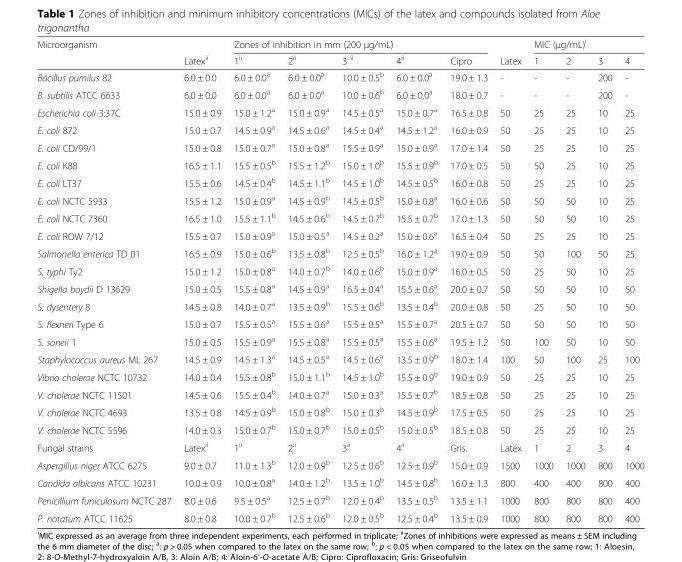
<table><thead><tr><td rowspan="2">Microorganism</td><td rowspan="2">Latex<sup>ii</sup></td><td colspan="5">Zones of inhibition in mm (200 μg/mL)</td><td rowspan="2">Latex</td><td colspan="4">MIC (μg/mL)<sup>i</sup></td></tr><tr><td>1<sup>ii</sup></td><td>2<sup>ii</sup></td><td>3 <sup>ii</sup></td><td>4<sup>ii</sup></td><td>Cipro</td><td>1</td><td>2</td><td>3</td><td>4</td></tr></thead><tbody><tr><td>Bacillus pumilus 82</td><td>6.0 ± 0.0</td><td>6.0 ± 0.0<sup>a</sup></td><td>6.0 ± 0.0<sup>a</sup></td><td>10.0 ± 0.5<sup>b</sup></td><td>6.0 ± 0.0<sup>a</sup></td><td>19.0 ± 1.3</td><td>-</td><td>-</td><td>-</td><td>200</td><td>-</td></tr><tr><td>B. subtilis ATCC 6633</td><td>6.0 ± 0.0</td><td>6.0 ± 0.0<sup>a</sup></td><td>6.0 ± 0.0<sup>a</sup></td><td>10.0 ± 0.6<sup>b</sup></td><td>6.0 ± 0.0<sup>a</sup></td><td>18.0 ± 0.7</td><td>-</td><td>-</td><td>-</td><td>200</td><td>-</td></tr><tr><td>Escherichia coli 3:37C</td><td>15.0 ± 0.9</td><td>15.0 ± 1.2<sup>a</sup></td><td>15.0 ± 0.9<sup>a</sup></td><td>14.5 ± 0.5<sup>a</sup></td><td>15.0 ± 0.7<sup>a</sup></td><td>16.5 ± 0.8</td><td>50</td><td>25</td><td>25</td><td>10</td><td>25</td></tr><tr><td>E. coli 872</td><td>15.0 ± 0.7</td><td>14.5 ± 0.9<sup>a</sup></td><td>14.5 ± 0.6<sup>a</sup></td><td>14.5 ± 0.4<sup>a</sup></td><td>14.5 ± 1.2<sup>a</sup></td><td>16.0 ± 0.9</td><td>50</td><td>25</td><td>25</td><td>10</td><td>25</td></tr><tr><td>E. coli CD/99/1</td><td>15.0 ± 0.8</td><td>15.0 ± 0.7<sup>a</sup></td><td>15.0 ± 0.8<sup>a</sup></td><td>15.5 ± 0.9<sup>a</sup></td><td>15.0 ± 0.9<sup>a</sup></td><td>17.0 ± 1.4</td><td>50</td><td>25</td><td>25</td><td>10</td><td>25</td></tr><tr><td>E. coli K88</td><td>16.5 ± 1.1</td><td>15.5 ± 0.5<sup>b</sup></td><td>15.5 ± 1.2<sup>b</sup></td><td>15.0 ± 1.0<sup>b</sup></td><td>15.5 ± 0.9<sup>b</sup></td><td>17.0 ± 0.5</td><td>50</td><td>50</td><td>25</td><td>10</td><td>25</td></tr><tr><td>E. coli LT37</td><td>15.5 ± 0.6</td><td>14.5 ± 0.4<sup>b</sup></td><td>14.5 ± 1.1<sup>b</sup></td><td>14.5 ± 1.0<sup>b</sup></td><td>14.5 ± 0.5<sup>b</sup></td><td>16.0 ± 0.8</td><td>50</td><td>25</td><td>25</td><td>10</td><td>25</td></tr><tr><td>E. coli NCTC 5933</td><td>15.5 ± 1.2</td><td>15.0 ± 0.9<sup>a</sup></td><td>14.5 ± 0.9<sup>b</sup></td><td>14.5 ± 0.5<sup>b</sup></td><td>15.0 ± 0.8<sup>a</sup></td><td>16.0 ± 0.6</td><td>50</td><td>50</td><td>50</td><td>10</td><td>25</td></tr><tr><td>E. coli NCTC 7360</td><td>16.5 ± 1.0</td><td>15.5 ± 1.1<sup>b</sup></td><td>14.5 ± 0.6<sup>b</sup></td><td>14.5 ± 0.7<sup>b</sup></td><td>15.5 ± 0.7<sup>b</sup></td><td>17.0 ± 1.3</td><td>50</td><td>50</td><td>50</td><td>10</td><td>25</td></tr><tr><td>E. coli ROW 7/12</td><td>15.5 ± 0.7</td><td>15.0 ± 0.9<sup>a</sup></td><td>15.0 ± 0.5<sup>a</sup></td><td>14.5 ± 0.2<sup>a</sup></td><td>15.0 ± 0.6<sup>a</sup></td><td>16.5 ± 0.4</td><td>50</td><td>25</td><td>25</td><td>10</td><td>25</td></tr><tr><td>Salmonella enterica TD 01</td><td>16.5 ± 0.9</td><td>15.0 ± 0.6<sup>b</sup></td><td>13.5 ± 0.8<sup>b</sup></td><td>12.5 ± 0.5<sup>b</sup></td><td>16.0 ± 1.2<sup>a</sup></td><td>19.0 ± 0.9</td><td>50</td><td>50</td><td>100</td><td>50</td><td>25</td></tr><tr><td>S. typhi Ty2</td><td>15.0 ± 1.2</td><td>15.0 ± 0.8<sup>a</sup></td><td>14.0 ± 0.7<sup>b</sup></td><td>14.0 ± 0.6<sup>b</sup></td><td>15.0 ± 0.9<sup>a</sup></td><td>16.0 ± 0.5</td><td>50</td><td>25</td><td>50</td><td>10</td><td>25</td></tr><tr><td>Shigella boydii D 13629</td><td>15.0 ± 0.5</td><td>15.5 ± 0.8<sup>a</sup></td><td>14.5 ± 0.9<sup>a</sup></td><td>16.5 ± 0.4<sup>a</sup></td><td>15.5 ± 0.6<sup>a</sup></td><td>20.0 ± 0.7</td><td>50</td><td>50</td><td>50</td><td>10</td><td>50</td></tr><tr><td>S. dysentery 8</td><td>14.5 ± 0.8</td><td>14.0 ± 0.7<sup>a</sup></td><td>13.5 ± 0.9<sup>b</sup></td><td>15.5 ± 0.6<sup>b</sup></td><td>13.5 ± 0.4<sup>b</sup></td><td>20.0 ± 0.8</td><td>50</td><td>25</td><td>50</td><td>10</td><td>50</td></tr><tr><td>S. flexneri Type 6</td><td>15.0 ± 0.7</td><td>15.5 ± 0.5<sup>a</sup></td><td>15.5 ± 0.6<sup>a</sup></td><td>15.5 ± 0.5<sup>a</sup></td><td>15.5 ± 0.7<sup>a</sup></td><td>20.5 ± 0.7</td><td>50</td><td>50</td><td>50</td><td>10</td><td>50</td></tr><tr><td>S. soneii 1</td><td>15.0 ± 0.5</td><td>15.5 ± 0.9<sup>a</sup></td><td>15.5 ± 0.8<sup>a</sup></td><td>15.5 ± 0.5<sup>a</sup></td><td>15.5 ± 0.6<sup>a</sup></td><td>19.5 ± 1.2</td><td>50</td><td>100</td><td>50</td><td>10</td><td>50</td></tr><tr><td>Staphylococcus aureus ML 267</td><td>14.5 ± 0.9</td><td>14.5 ± 1.3<sup>a</sup></td><td>14.5 ± 0.5<sup>a</sup></td><td>14.5 ± 0.6<sup>a</sup></td><td>13.5 ± 0.9<sup>b</sup></td><td>18.0 ± 1.4</td><td>100</td><td>50</td><td>100</td><td>25</td><td>100</td></tr><tr><td>Vibrio cholerae NCTC 10732</td><td>14.0 ± 0.4</td><td>15.5 ± 0.8<sup>b</sup></td><td>15.0 ± 1.1<sup>b</sup></td><td>14.5 ± 1.0<sup>b</sup></td><td>15.5 ± 0.9<sup>b</sup></td><td>19.0 ± 0.9</td><td>50</td><td>25</td><td>25</td><td>10</td><td>25</td></tr><tr><td>V. cholerae NCTC 11501</td><td>14.5 ± 0.6</td><td>15.5 ± 0.4<sup>b</sup></td><td>14.0 ± 0.7<sup>a</sup></td><td>15.0 ± 0.3<sup>a</sup></td><td>15.5 ± 0.7<sup>b</sup></td><td>18.5 ± 0.8</td><td>50</td><td>25</td><td>25</td><td>10</td><td>25</td></tr><tr><td>V. cholerae NCTC 4693</td><td>13.5 ± 0.8</td><td>14.5 ± 0.9<sup>b</sup></td><td>15.0 ± 0.8<sup>b</sup></td><td>15.0 ± 0.3<sup>b</sup></td><td>14.5 ± 0.9<sup>b</sup></td><td>17.5 ± 0.5</td><td>50</td><td>25</td><td>25</td><td>10</td><td>25</td></tr><tr><td>V. cholerae NCTC 5596</td><td>14.0 ± 0.3</td><td>15.0 ± 0.7<sup>b</sup></td><td>15.0 ± 0.7<sup>b</sup></td><td>15.0 ± 0.5<sup>b</sup></td><td>15.0 ± 0.5<sup>b</sup></td><td>18.5 ± 0.8</td><td>50</td><td>25</td><td>25</td><td>10</td><td>25</td></tr><tr><td>Fungal strains</td><td>Latex<sup>ii</sup></td><td>1<sup>ii</sup></td><td>2<sup>ii</sup></td><td>3<sup>ii</sup></td><td>4<sup>ii</sup></td><td>Gris.</td><td>Latex</td><td>1</td><td>2</td><td>3</td><td>4</td></tr><tr><td>Aspergillus niger ATCC 6275</td><td>9.0 ± 0.7</td><td>11.0 ± 1.3<sup>b</sup></td><td>12.0 ± 0.9<sup>b</sup></td><td>12.5 ± 0.6<sup>b</sup></td><td>12.5 ± 0.9<sup>b</sup></td><td>15.0 ± 0.9</td><td>1500</td><td>1000</td><td>1000</td><td>800</td><td>1000</td></tr><tr><td>Candida albicans ATCC 10231</td><td>10.0 ± 0.9</td><td>10.0 ± 0.8<sup>a</sup></td><td>14.0 ± 1.2<sup>b</sup></td><td>13.5 ± 1.0<sup>b</sup></td><td>14.5 ± 0.8<sup>b</sup></td><td>16.0 ± 1.3</td><td>800</td><td>400</td><td>400</td><td>800</td><td>400</td></tr><tr><td>Penicillium funiculosum NCTC 287</td><td>8.0 ± 0.6</td><td>9.5 ± 0.5<sup>a</sup></td><td>12.5 ± 0.7<sup>b</sup></td><td>12.0 ± 0.4<sup>b</sup></td><td>13.5 ± 0.5<sup>b</sup></td><td>13.5 ± 1.1</td><td>1000</td><td>800</td><td>800</td><td>800</td><td>400</td></tr><tr><td>P. notatum ATCC 11625</td><td>8.0 ± 0.8</td><td>10.0 ± 0.7<sup>b</sup></td><td>12.5 ± 0.6<sup>b</sup></td><td>12.0 ± 0.5<sup>b</sup></td><td>12.5 ± 0.4<sup>b</sup></td><td>13.5 ± 0.9</td><td>1000</td><td>800</td><td>800</td><td>800</td><td>400</td></tr></tbody></table>